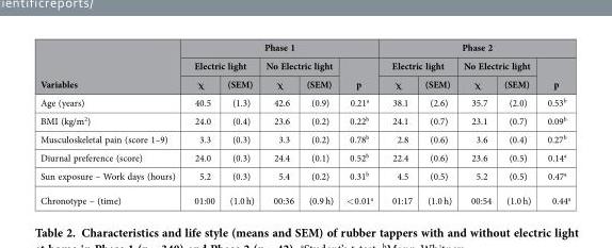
<table><thead><tr><td rowspan="3">Variables</td><td colspan="5">Phase 1</td><td colspan="5">Phase 2</td></tr><tr><td colspan="2">Electric light</td><td colspan="2">No Electric light</td><td rowspan="2">p</td><td colspan="2">Electric light</td><td colspan="2">No Electric light</td><td rowspan="2">p</td></tr><tr><td>χ</td><td>(SEM)</td><td>χ</td><td>(SEM)</td><td>χ</td><td>(SEM)</td><td>χ</td><td>(SEM)</td></tr></thead><tbody><tr><td>Age (years)</td><td>40.5</td><td>(1.3)</td><td>42.6</td><td>(0.9)</td><td>0.21<sup>a</sup></td><td>38.1</td><td>(2.6)</td><td>35.7</td><td>(2.0)</td><td>0.53<sup>b</sup></td></tr><tr><td>BMI (kg/m<sup>2</sup>)</td><td>24.0</td><td>(0.4)</td><td>23.6</td><td>(0.2)</td><td>0.22<sup>b</sup></td><td>24.1</td><td>(0.7)</td><td>23.1</td><td>(0.7)</td><td>0.09<sup>b</sup></td></tr><tr><td>Musculoskeletal pain (score 1–9)</td><td>3.3</td><td>(0.3)</td><td>3.3</td><td>(0.2)</td><td>0.78<sup>b</sup></td><td>2.8</td><td>(0.6)</td><td>3.6</td><td>(0.4)</td><td>0.27<sup>b</sup></td></tr><tr><td>Diurnal preference (score)</td><td>24.0</td><td>(0.3)</td><td>24.4</td><td>(0.1)</td><td>0.52<sup>b</sup></td><td>22.4</td><td>(0.6)</td><td>23.6</td><td>(0.5)</td><td>0.14<sup>a</sup></td></tr><tr><td>Sun exposure – Work days (hours)</td><td>5.2</td><td>(0.3)</td><td>5.4</td><td>(0.2)</td><td>0.31<sup>b</sup></td><td>4.5</td><td>(0.5)</td><td>5.2</td><td>(0.5)</td><td>0.47<sup>a</sup></td></tr><tr><td>Chronotype – (time)</td><td>01:00</td><td>(1.0 h)</td><td>00:36</td><td>(0.9 h)</td><td>&lt; 0.01<sup>a</sup></td><td>01:17</td><td>(1.0 h)</td><td>00:54</td><td>(1.0 h)</td><td>0.44<sup>a</sup></td></tr></tbody></table>